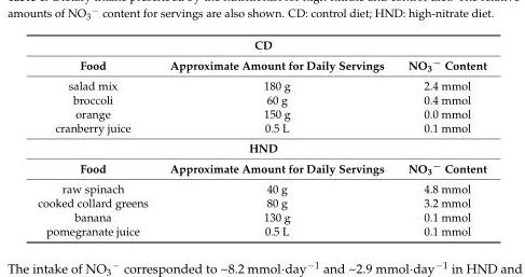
<table><tbody><tr><td colspan="3">CD</td></tr><tr><td>Food</td><td>Approximate Amount for Daily Servings</td><td>NO<sub>3</sub><sup>−</sup> Content</td></tr><tr><td>salad mix</td><td>180 g</td><td>2.4 mmol</td></tr><tr><td>broccoli</td><td>60 g</td><td>0.4 mmol</td></tr><tr><td>orange</td><td>150 g</td><td>0.0 mmol</td></tr><tr><td>cranberry juice</td><td>0.5 L</td><td>0.1 mmol</td></tr><tr><td colspan="3">HND</td></tr><tr><td>Food</td><td>Approximate Amount for Daily Servings</td><td>NO<sub>3</sub><sup>−</sup> Content</td></tr><tr><td>raw spinach</td><td>40 g</td><td>4.8 mmol</td></tr><tr><td>cooked collard greens</td><td>80 g</td><td>3.2 mmol</td></tr><tr><td>banana</td><td>130 g</td><td>0.1 mmol</td></tr><tr><td>pomegranate juice</td><td>0.5 L</td><td>0.1 mmol</td></tr></tbody></table>